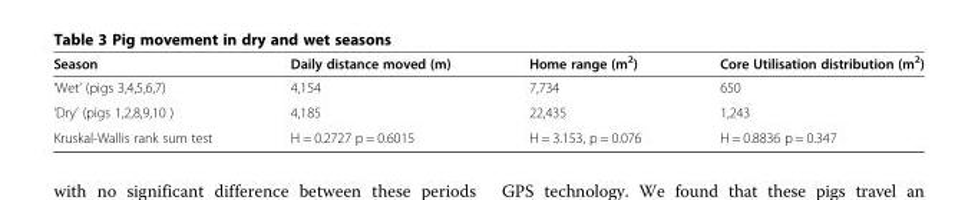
<table><thead><tr><td>Season</td><td>Daily distance moved (m)</td><td>Home range (m<sup>2</sup>)</td><td>Core Utilisation distribution (m<sup>2</sup>)</td></tr></thead><tbody><tr><td>‘Wet’ (pigs 3,4,5,6,7)</td><td>4,154</td><td>7,734</td><td>650</td></tr><tr><td>‘Dry’ (pigs 1,2,8,9,10 )</td><td>4,185</td><td>22,435</td><td>1,243</td></tr><tr><td>Kruskal-Wallis rank sum test</td><td>H = 0.2727 p = 0.6015</td><td>H = 3.153, p = 0.076</td><td>H = 0.8836 p = 0.347</td></tr></tbody></table>